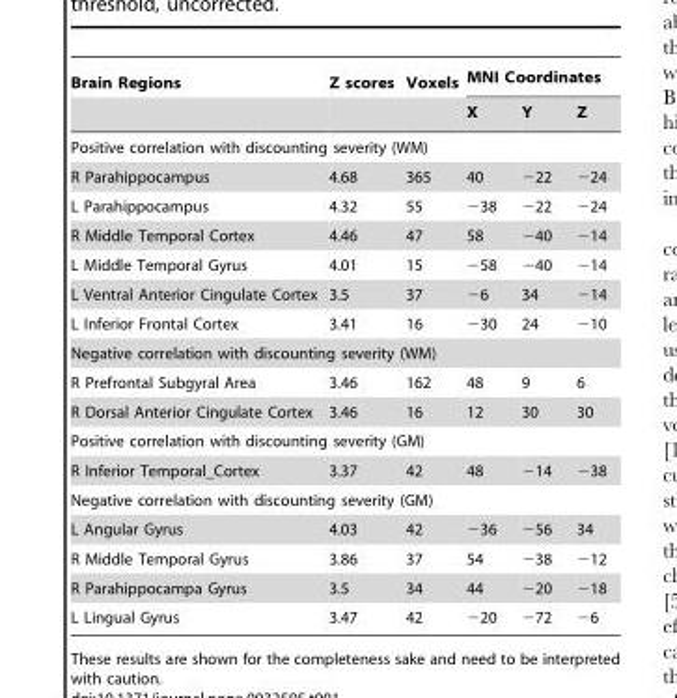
<table><thead><tr><td rowspan="2">Brain Regions</td><td rowspan="2">Z scores</td><td rowspan="2">Voxels</td><td colspan="3">MNI Coordinates</td></tr><tr><td>X</td><td>Y</td><td>Z</td></tr></thead><tbody><tr><td colspan="6">Positive correlation with discounting severity (WM)</td></tr><tr><td>R Parahippocampus</td><td>4.68</td><td>365</td><td>40</td><td>−22</td><td>−24</td></tr><tr><td>L Parahippocampus</td><td>4.32</td><td>55</td><td>−38</td><td>−22</td><td>−24</td></tr><tr><td>R Middle Temporal Cortex</td><td>4.46</td><td>47</td><td>58</td><td>−40</td><td>−14</td></tr><tr><td>L Middle Temporal Gyrus</td><td>4.01</td><td>15</td><td>−58</td><td>−40</td><td>−14</td></tr><tr><td>L Ventral Anterior Cingulate Cortex</td><td>3.5</td><td>37</td><td>−6</td><td>34</td><td>−14</td></tr><tr><td>L Inferior Frontal Cortex</td><td>3.41</td><td>16</td><td>−30</td><td>24</td><td>−10</td></tr><tr><td colspan="6">Negative correlation with discounting severity (WM)</td></tr><tr><td>R Prefrontal Subgyral Area</td><td>3.46</td><td>162</td><td>48</td><td>9</td><td>6</td></tr><tr><td>R Dorsal Anterior Cingulate Cortex</td><td>3.46</td><td>16</td><td>12</td><td>30</td><td>30</td></tr><tr><td colspan="6">Positive correlation with discounting severity (GM)</td></tr><tr><td>R Inferior Temporal_Cortex</td><td>3.37</td><td>42</td><td>48</td><td>−14</td><td>−38</td></tr><tr><td colspan="6">Negative correlation with discounting severity (GM)</td></tr><tr><td>L Angular Gyrus</td><td>4.03</td><td>42</td><td>−36</td><td>−56</td><td>34</td></tr><tr><td>R Middle Temporal Gyrus</td><td>3.86</td><td>37</td><td>54</td><td>−38</td><td>−12</td></tr><tr><td>R Parahippocampa Gyrus</td><td>3.5</td><td>34</td><td>44</td><td>−20</td><td>−18</td></tr><tr><td>L Lingual Gyrus</td><td>3.47</td><td>42</td><td>−20</td><td>−72</td><td>−6</td></tr></tbody></table>